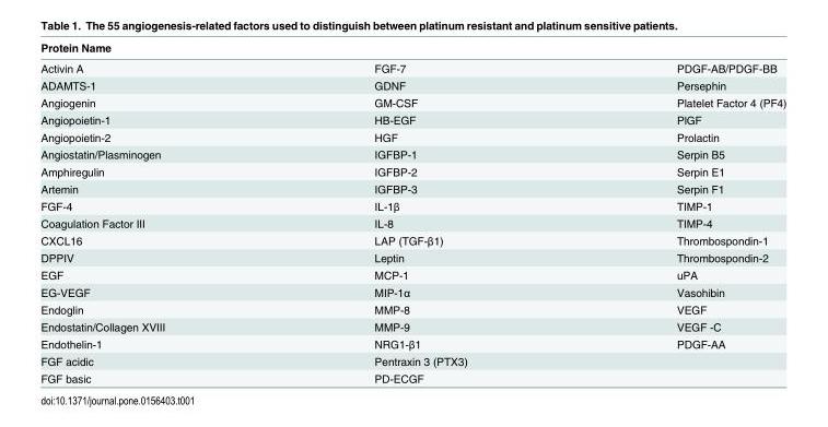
<table><thead><tr><td colspan="3">Protein Name</td></tr><tr><td>Activin A</td><td>FGF-7</td><td>PDGF-AB/PDGF-BB</td></tr></thead><tbody><tr><td>ADAMTS-1</td><td>GDNF</td><td>Persephin</td></tr><tr><td>Angiogenin</td><td>GM-CSF</td><td>Platelet Factor 4 (PF4)</td></tr><tr><td>Angiopoietin-1</td><td>HB-EGF</td><td>PlGF</td></tr><tr><td>Angiopoietin-2</td><td>HGF</td><td>Prolactin</td></tr><tr><td>Angiostatin/Plasminogen</td><td>IGFBP-1</td><td>Serpin B5</td></tr><tr><td>Amphiregulin</td><td>IGFBP-2</td><td>Serpin E1</td></tr><tr><td>Artemin</td><td>IGFBP-3</td><td>Serpin F1</td></tr><tr><td>FGF-4</td><td>IL-1β</td><td>TIMP-1</td></tr><tr><td>Coagulation Factor III</td><td>IL-8</td><td>TIMP-4</td></tr><tr><td>CXCL16</td><td>LAP (TGF-β1)</td><td>Thrombospondin-1</td></tr><tr><td>DPPIV</td><td>Leptin</td><td>Thrombospondin-2</td></tr><tr><td>EGF</td><td>MCP-1</td><td>uPA</td></tr><tr><td>EG-VEGF</td><td>MIP-1α</td><td>Vasohibin</td></tr><tr><td>Endoglin</td><td>MMP-8</td><td>VEGF</td></tr><tr><td>Endostatin/Collagen XVIII</td><td>MMP-9</td><td>VEGF -C</td></tr><tr><td>Endothelin-1</td><td>NRG1-β1</td><td>PDGF-AA</td></tr><tr><td>FGF acidic</td><td>Pentraxin 3 (PTX3)</td><td></td></tr><tr><td>FGF basic</td><td>PD-ECGF</td><td></td></tr></tbody></table>